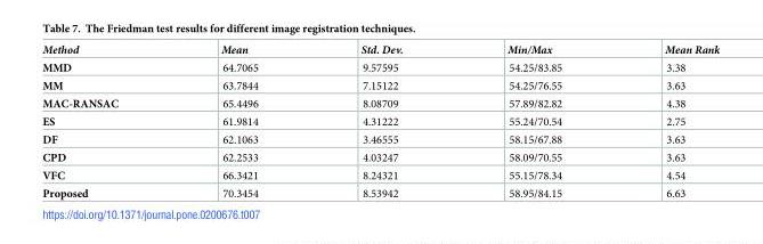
<table><thead><tr><td>Method</td><td>Mean</td><td>Std. Dev.</td><td>Min/Max</td><td>Mean Rank</td></tr></thead><tbody><tr><td>MMD</td><td>64.7065</td><td>9.57595</td><td>54.25/83.85</td><td>3.38</td></tr><tr><td>MM</td><td>63.7844</td><td>7.15122</td><td>54.25/76.55</td><td>3.63</td></tr><tr><td>MAC-RANSAC</td><td>65.4496</td><td>8.08709</td><td>57.89/82.82</td><td>4.38</td></tr><tr><td>ES</td><td>61.9814</td><td>4.31222</td><td>55.24/70.54</td><td>2.75</td></tr><tr><td>DF</td><td>62.1063</td><td>3.46555</td><td>58.15/67.88</td><td>3.63</td></tr><tr><td>CPD</td><td>62.2533</td><td>4.03247</td><td>58.09/70.55</td><td>3.63</td></tr><tr><td>VFC</td><td>66.3421</td><td>8.24321</td><td>55.15/78.34</td><td>4.54</td></tr><tr><td>Proposed</td><td>70.3454</td><td>8.53942</td><td>58.95/84.15</td><td>6.63</td></tr></tbody></table>